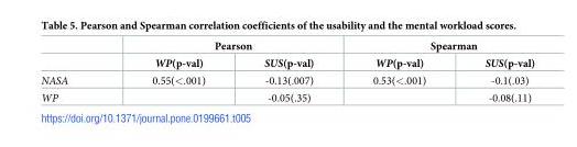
<table><thead><tr><td rowspan="2"></td><td colspan="2">Pearson</td><td colspan="2">Spearman</td></tr><tr><td>WP(p-val)</td><td>SUS(p-val)</td><td>WP(p-val)</td><td>SUS(p-val)</td></tr></thead><tbody><tr><td>NASA</td><td>0.55(&lt;.001)</td><td>-0.13(.007)</td><td>0.53(&lt;.001)</td><td>-0.1(.03)</td></tr><tr><td>WP</td><td></td><td>-0.05(.35)</td><td></td><td>-0.08(.11)</td></tr></tbody></table>